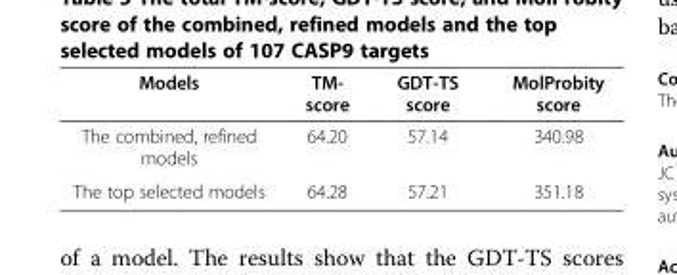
<table><thead><tr><td>Models</td><td>TM- score</td><td>GDT-TS score</td><td>MolProbity score</td></tr></thead><tbody><tr><td>The combined, refined models</td><td>64.20</td><td>57.14</td><td>340.98</td></tr><tr><td>The top selected models</td><td>64.28</td><td>57.21</td><td>351.18</td></tr></tbody></table>